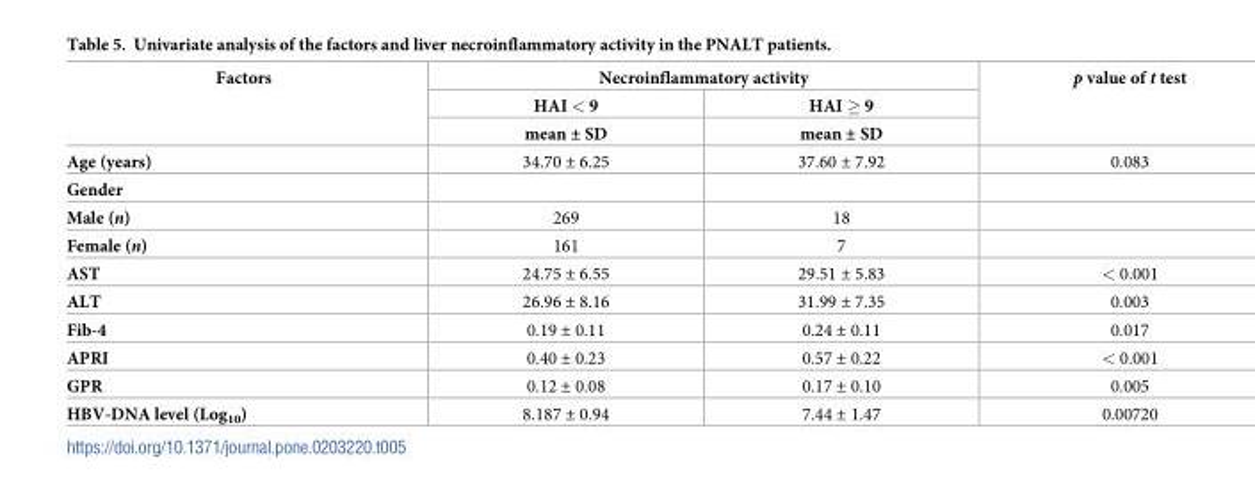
<table><thead><tr><td rowspan="3">Factors</td><td colspan="2">Necroinflammatory activity</td><td rowspan="3">p value of t test</td></tr><tr><td rowspan="2">HAI &lt; 9 mean ± SD</td><td rowspan="2">HAI ≥ 9 mean ± SD</td></tr><tr></tr></thead><tbody><tr><td>Age (years)</td><td>34.70 ± 6.25</td><td>37.60 ± 7.92</td><td>0.083</td></tr><tr><td colspan="4">Gender</td></tr><tr><td>Male (n)</td><td>269</td><td>18</td><td></td></tr><tr><td>Female (n)</td><td>161</td><td>7</td><td></td></tr><tr><td>AST</td><td>24.75 ± 6.55</td><td>29.51 ± 5.83</td><td>&lt; 0.001</td></tr><tr><td>ALT</td><td>26.96 ± 8.16</td><td>31.99 ± 7.35</td><td>0.003</td></tr><tr><td>Fib-4</td><td>0.19 ± 0.11</td><td>0.24 ± 0.11</td><td>0.017</td></tr><tr><td>APRI</td><td>0.40 ± 0.23</td><td>0.57 ± 0.22</td><td>&lt; 0.001</td></tr><tr><td>GPR</td><td>0.12 ± 0.08</td><td>0.17 ± 0.10</td><td>0.005</td></tr><tr><td>HBV-DNA level (Log<sub>10</sub>)</td><td>8.187 ± 0.94</td><td>7.44 ± 1.47</td><td>0.00720</td></tr></tbody></table>